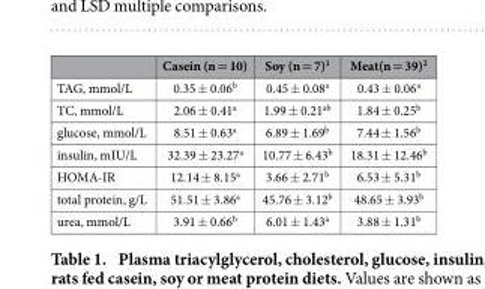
<table><thead><tr><td></td><td>Casein (n = 10)</td><td>Soy (n = 7)<sup>1</sup></td><td>Meat(n = 39)<sup>2</sup></td></tr></thead><tbody><tr><td>TAG, mmol/L</td><td>0.35 ± 0.06<sup>b</sup></td><td>0.45 ± 0.08<sup>a</sup></td><td>0.43 ± 0.06<sup>a</sup></td></tr><tr><td>TC, mmol/L</td><td>2.06 ± 0.41<sup>a</sup></td><td>1.99 ± 0.21<sup>ab</sup></td><td>1.84 ± 0.25<sup>b</sup></td></tr><tr><td>glucose, mmol/L</td><td>8.51 ± 0.63<sup>a</sup></td><td>6.89 ± 1.69<sup>b</sup></td><td>7.44 ± 1.56<sup>b</sup></td></tr><tr><td>insulin, mIU/L</td><td>32.39 ± 23.27<sup>a</sup></td><td>10.77 ± 6.43<sup>b</sup></td><td>18.31 ± 12.46<sup>b</sup></td></tr><tr><td>HOMA-IR</td><td>12.14 ± 8.15<sup>a</sup></td><td>3.66 ± 2.71<sup>b</sup></td><td>6.53 ± 5.31<sup>b</sup></td></tr><tr><td>total protein, g/L</td><td>51.51 ± 3.86<sup>a</sup></td><td>45.76 ± 3.12<sup>b</sup></td><td>48.65 ± 3.93<sup>b</sup></td></tr><tr><td>urea, mmol/L</td><td>3.91 ± 0.66<sup>b</sup></td><td>6.01 ± 1.43<sup>a</sup></td><td>3.88 ± 1.31<sup>b</sup></td></tr></tbody></table>